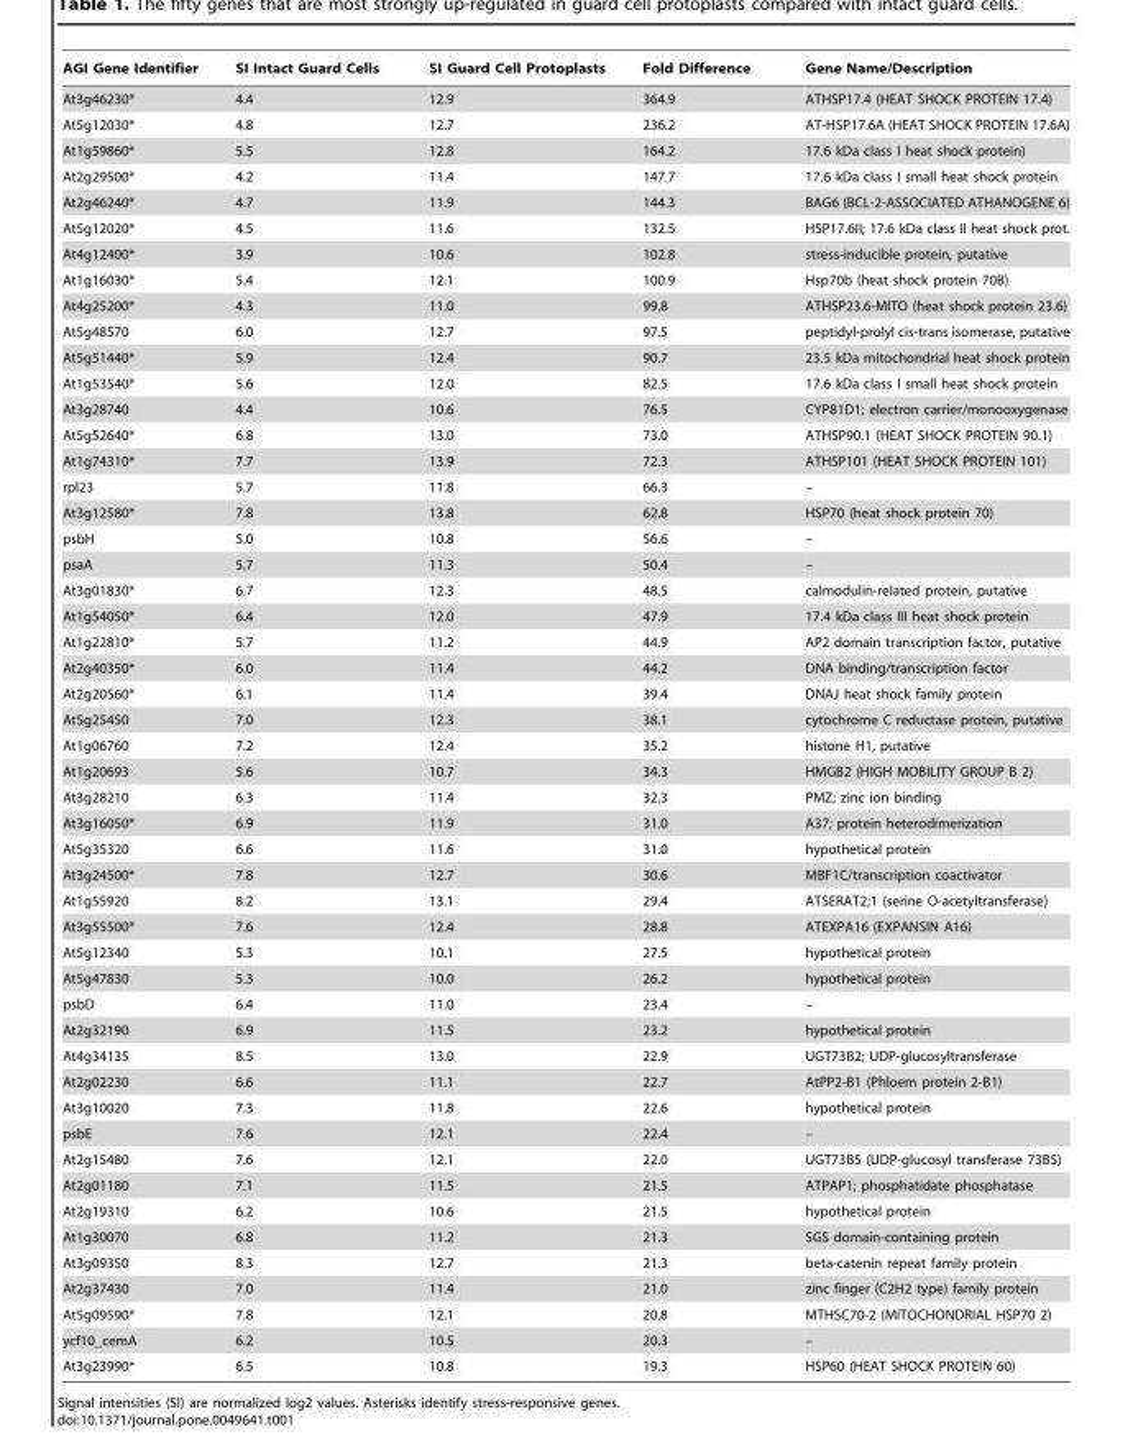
<table><thead><tr><td>AGI Gene Identifier</td><td>SI Intact Guard Cells</td><td>SI Guard Cell Protoplasts</td><td>Fold Difference</td><td>Gene Name/Description</td></tr></thead><tbody><tr><td>At3g46230*</td><td>4.4</td><td>12.9</td><td>364.9</td><td>ATHSP17.4 (HEAT SHOCK PROTEIN 17.4)</td></tr><tr><td>At5g12030*</td><td>4.8</td><td>12.7</td><td>236.2</td><td>AT-HSP17.6A (HEAT SHOCK PROTEIN 17.6A)</td></tr><tr><td>At1g59860*</td><td>5.5</td><td>12.8</td><td>164.2</td><td>17.6 kDa class I heat shock protein)</td></tr><tr><td>At2g29500*</td><td>4.2</td><td>11.4</td><td>147.7</td><td>17.6 kDa class I small heat shock protein</td></tr><tr><td>At2g46240*</td><td>4.7</td><td>11.9</td><td>144.3</td><td>BAG6 (BCL-2-ASSOCIATED ATHANOGENE 6)</td></tr><tr><td>At5g12020*</td><td>4.5</td><td>11.6</td><td>132.5</td><td>HSP17.6II; 17.6 kDa class II heat shock prot.</td></tr><tr><td>At4g12400*</td><td>3.9</td><td>10.6</td><td>102.8</td><td>stress-inducible protein, putative</td></tr><tr><td>At1g16030*</td><td>5.4</td><td>12.1</td><td>100.9</td><td>Hsp70b (heat shock protein 70B)</td></tr><tr><td>At4g25200*</td><td>4.3</td><td>11.0</td><td>99.8</td><td>ATHSP23.6-MITO (heat shock protein 23.6)</td></tr><tr><td>At5g48570</td><td>6.0</td><td>12.7</td><td>97.5</td><td>peptidyl-prolyl cis-trans isomerase, putative</td></tr><tr><td>At5g51440*</td><td>5.9</td><td>12.4</td><td>90.7</td><td>23.5 kDa mitochondrial heat shock protein</td></tr><tr><td>At1g53540*</td><td>5.6</td><td>12.0</td><td>82.5</td><td>17.6 kDa class I small heat shock protein</td></tr><tr><td>At3g28740</td><td>4.4</td><td>10.6</td><td>76.5</td><td>CYP81D1; electron carrier/monooxygenase</td></tr><tr><td>At5g52640*</td><td>6.8</td><td>13.0</td><td>73.0</td><td>ATHSP90.1 (HEAT SHOCK PROTEIN 90.1)</td></tr><tr><td>At1g74310*</td><td>7.7</td><td>13.9</td><td>72.3</td><td>ATHSP101 (HEAT SHOCK PROTEIN 101)</td></tr><tr><td>rpl23</td><td>5.7</td><td>11.8</td><td>66.3</td><td>–</td></tr><tr><td>At3g12580*</td><td>7.8</td><td>13.8</td><td>62.8</td><td>HSP70 (heat shock protein 70)</td></tr><tr><td>psbH</td><td>5.0</td><td>10.8</td><td>56.6</td><td>–</td></tr><tr><td>psaA</td><td>5.7</td><td>11.3</td><td>50.4</td><td>–</td></tr><tr><td>At3g01830*</td><td>6.7</td><td>12.3</td><td>48.5</td><td>calmodulin-related protein, putative</td></tr><tr><td>At1g54050*</td><td>6.4</td><td>12.0</td><td>47.9</td><td>17.4 kDa class III heat shock protein</td></tr><tr><td>At1g22810*</td><td>5.7</td><td>11.2</td><td>44.9</td><td>AP2 domain transcription factor, putative</td></tr><tr><td>At2g40350*</td><td>6.0</td><td>11.4</td><td>44.2</td><td>DNA binding/transcription factor</td></tr><tr><td>At2g20560*</td><td>6.1</td><td>11.4</td><td>39.4</td><td>DNAJ heat shock family protein</td></tr><tr><td>At5g25450</td><td>7.0</td><td>12.3</td><td>38.1</td><td>cytochrome C reductase protein, putative</td></tr><tr><td>At1g06760</td><td>7.2</td><td>12.4</td><td>35.2</td><td>histone H1, putative</td></tr><tr><td>At1g20693</td><td>5.6</td><td>10.7</td><td>34.3</td><td>HMGB2 (HIGH MOBILITY GROUP B 2)</td></tr><tr><td>At3g28210</td><td>6.3</td><td>11.4</td><td>32.3</td><td>PMZ; zinc ion binding</td></tr><tr><td>At3g16050*</td><td>6.9</td><td>11.9</td><td>31.0</td><td>A37; protein heterodimerization</td></tr><tr><td>At5g35320</td><td>6.6</td><td>11.6</td><td>31.0</td><td>hypothetical protein</td></tr><tr><td>At3g24500*</td><td>7.8</td><td>12.7</td><td>30.6</td><td>MBF1C/transcription coactivator</td></tr><tr><td>At1g55920</td><td>8.2</td><td>13.1</td><td>29.4</td><td>ATSERAT2;1 (serine O-acetyltransferase)</td></tr><tr><td>At3g55500*</td><td>7.6</td><td>12.4</td><td>28.8</td><td>ATEXPA16 (EXPANSIN A16)</td></tr><tr><td>At5g12340</td><td>5.3</td><td>10.1</td><td>27.5</td><td>hypothetical protein</td></tr><tr><td>At5g47830</td><td>5.3</td><td>10.0</td><td>26.2</td><td>hypothetical protein</td></tr><tr><td>psbD</td><td>6.4</td><td>11.0</td><td>23.4</td><td>–</td></tr><tr><td>At2g32190</td><td>6.9</td><td>11.5</td><td>23.2</td><td>hypothetical protein</td></tr><tr><td>At4g34135</td><td>8.5</td><td>13.0</td><td>22.9</td><td>UGT73B2; UDP-glucosyltransferase</td></tr><tr><td>At2g02230</td><td>6.6</td><td>11.1</td><td>22.7</td><td>AtPP2-B1 (Phloem protein 2-B1)</td></tr><tr><td>At3g10020</td><td>7.3</td><td>11.8</td><td>22.6</td><td>hypothetical protein</td></tr><tr><td>psbE</td><td>7.6</td><td>12.1</td><td>22.4</td><td>–</td></tr><tr><td>At2g15480</td><td>7.6</td><td>12.1</td><td>22.0</td><td>UGT73B5 (UDP-glucosyl transferase 73B5)</td></tr><tr><td>At2g01180</td><td>7.1</td><td>11.5</td><td>21.5</td><td>ATPAP1; phosphatidate phosphatase</td></tr><tr><td>At2g19310</td><td>6.2</td><td>10.6</td><td>21.5</td><td>hypothetical protein</td></tr><tr><td>At1g30070</td><td>6.8</td><td>11.2</td><td>21.3</td><td>SGS domain-containing protein</td></tr><tr><td>At3g09350</td><td>8.3</td><td>12.7</td><td>21.3</td><td>beta-catenin repeat family protein</td></tr><tr><td>At2g37430</td><td>7.0</td><td>11.4</td><td>21.0</td><td>zinc finger (C2H2 type) family protein</td></tr><tr><td>At5g09590*</td><td>7.8</td><td>12.1</td><td>20.8</td><td>MTHSC70-2 (MITOCHONDRIAL HSP70 2)</td></tr><tr><td>ycf10_cemA</td><td>6.2</td><td>10.5</td><td>20.3</td><td>–</td></tr><tr><td>At3g23990*</td><td>6.5</td><td>10.8</td><td>19.3</td><td>HSP60 (HEAT SHOCK PROTEIN 60)</td></tr></tbody></table>